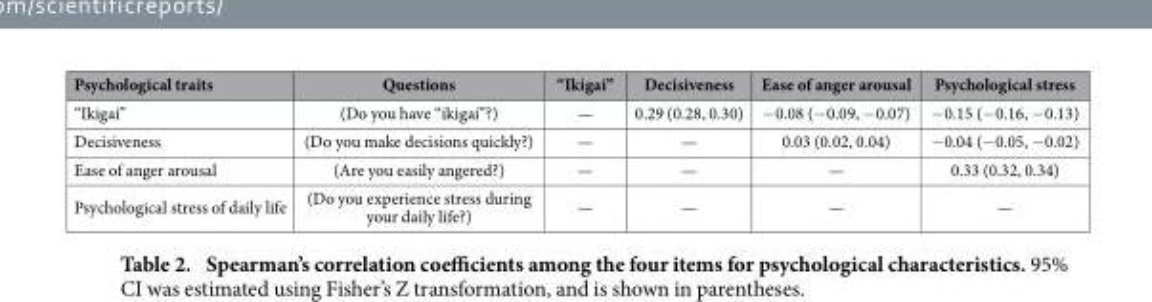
<table><thead><tr><td>Psychological traits</td><td>Questions</td><td>“Ikigai”</td><td>Decisiveness</td><td>Ease of anger arousal</td><td>Psychological stress</td></tr></thead><tbody><tr><td>“Ikigai”</td><td>(Do you have “ikigai”?)</td><td>—</td><td>0.29 (0.28, 0.30)</td><td>− 0.08 (− 0.09, − 0.07)</td><td>− 0.15 (− 0.16, − 0.13)</td></tr><tr><td>Decisiveness</td><td>(Do you make decisions quickly?)</td><td>—</td><td>—</td><td>0.03 (0.02, 0.04)</td><td>− 0.04 (− 0.05, − 0.02)</td></tr><tr><td>Ease of anger arousal</td><td>(Are you easily angered?)</td><td>—</td><td>—</td><td>—</td><td>0.33 (0.32, 0.34)</td></tr><tr><td>Psychological stress of daily life</td><td>(Do you experience stress during your daily life?)</td><td>—</td><td>—</td><td>—</td><td>—</td></tr></tbody></table>